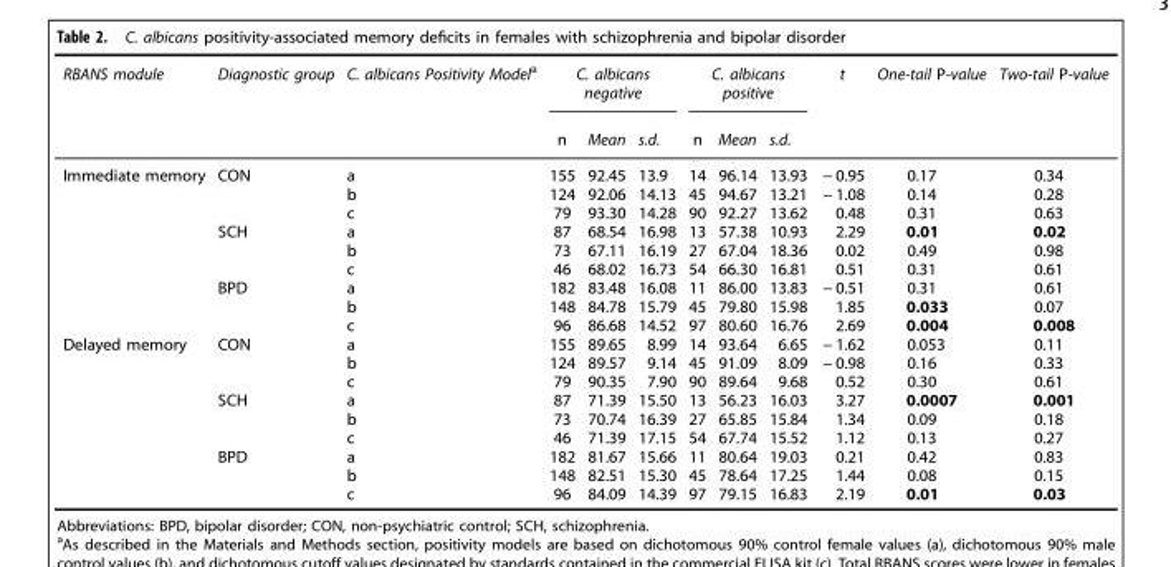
<table><thead><tr><td rowspan="2">RBANS module</td><td rowspan="2">Diagnostic group</td><td rowspan="2">C. albicans Positivity Model<sup>a</sup></td><td colspan="3">C. albicans negative</td><td colspan="3">C. albicans positive</td><td rowspan="2">t</td><td rowspan="2">One-tail P-value</td><td rowspan="2">Two-tail P-value</td></tr><tr><td>n</td><td>Mean</td><td>s.d.</td><td>n</td><td>Mean</td><td>s.d.</td></tr></thead><tbody><tr><td rowspan="9">Immediate memory</td><td>CON</td><td>a</td><td>155</td><td>92.45</td><td>13.9</td><td>14</td><td>96.14</td><td>13.93</td><td>− 0.95</td><td>0.17</td><td>0.34</td></tr><tr><td></td><td>b</td><td>124</td><td>92.06</td><td>14.13</td><td>45</td><td>94.67</td><td>13.21</td><td>− 1.08</td><td>0.14</td><td>0.28</td></tr><tr><td></td><td>c</td><td>79</td><td>93.30</td><td>14.28</td><td>90</td><td>92.27</td><td>13.62</td><td>0.48</td><td>0.31</td><td>0.63</td></tr><tr><td>SCH</td><td>a</td><td>87</td><td>68.54</td><td>16.98</td><td>13</td><td>57.38</td><td>10.93</td><td>2.29</td><td>0.01</td><td>0.02</td></tr><tr><td></td><td>b</td><td>73</td><td>67.11</td><td>16.19</td><td>27</td><td>67.04</td><td>18.36</td><td>0.02</td><td>0.49</td><td>0.98</td></tr><tr><td></td><td>c</td><td>46</td><td>68.02</td><td>16.73</td><td>54</td><td>66.30</td><td>16.81</td><td>0.51</td><td>0.31</td><td>0.61</td></tr><tr><td>BPD</td><td>a</td><td>182</td><td>83.48</td><td>16.08</td><td>11</td><td>86.00</td><td>13.83</td><td>− 0.51</td><td>0.31</td><td>0.61</td></tr><tr><td></td><td>b</td><td>148</td><td>84.78</td><td>15.79</td><td>45</td><td>79.80</td><td>15.98</td><td>1.85</td><td>0.033</td><td>0.07</td></tr><tr><td></td><td>c</td><td>96</td><td>86.68</td><td>14.52</td><td>97</td><td>80.60</td><td>16.76</td><td>2.69</td><td>0.004</td><td>0.008</td></tr><tr><td rowspan="9">Delayed memory</td><td>CON</td><td>a</td><td>155</td><td>89.65</td><td>8.99</td><td>14</td><td>93.64</td><td>6.65</td><td>− 1.62</td><td>0.053</td><td>0.11</td></tr><tr><td></td><td>b</td><td>124</td><td>89.57</td><td>9.14</td><td>45</td><td>91.09</td><td>8.09</td><td>− 0.98</td><td>0.16</td><td>0.33</td></tr><tr><td></td><td>c</td><td>79</td><td>90.35</td><td>7.90</td><td>90</td><td>89.64</td><td>9.68</td><td>0.52</td><td>0.30</td><td>0.61</td></tr><tr><td>SCH</td><td>a</td><td>87</td><td>71.39</td><td>15.50</td><td>13</td><td>56.23</td><td>16.03</td><td>3.27</td><td>0.0007</td><td>0.001</td></tr><tr><td></td><td>b</td><td>73</td><td>70.74</td><td>16.39</td><td>27</td><td>65.85</td><td>15.84</td><td>1.34</td><td>0.09</td><td>0.18</td></tr><tr><td></td><td>c</td><td>46</td><td>71.39</td><td>17.15</td><td>54</td><td>67.74</td><td>15.52</td><td>1.12</td><td>0.13</td><td>0.27</td></tr><tr><td>BPD</td><td>a</td><td>182</td><td>81.67</td><td>15.66</td><td>11</td><td>80.64</td><td>19.03</td><td>0.21</td><td>0.42</td><td>0.83</td></tr><tr><td></td><td>b</td><td>148</td><td>82.51</td><td>15.30</td><td>45</td><td>78.64</td><td>17.25</td><td>1.44</td><td>0.08</td><td>0.15</td></tr><tr><td></td><td>c</td><td>96</td><td>84.09</td><td>14.39</td><td>97</td><td>79.15</td><td>16.83</td><td>2.19</td><td>0.01</td><td>0.03</td></tr></tbody></table>